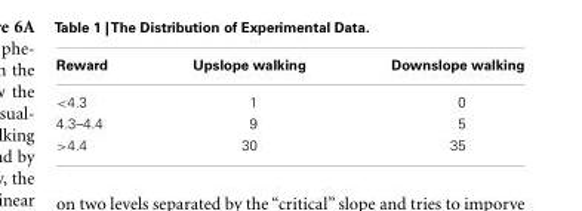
<table><thead><tr><td>Reward</td><td>Upslope walking</td><td>Downslope walking</td></tr></thead><tbody><tr><td>&lt;4.3</td><td>1</td><td>0</td></tr><tr><td>4.3–4.4</td><td>9</td><td>5</td></tr><tr><td>&gt;4.4</td><td>30</td><td>35</td></tr></tbody></table>